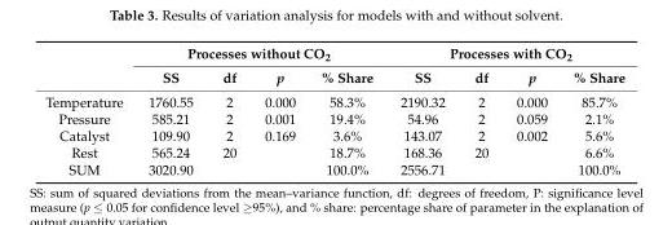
<table><thead><tr><td rowspan="2"></td><td colspan="4">Processes without CO<sub>2</sub></td><td colspan="4">Processes with CO<sub>2</sub></td></tr><tr><td>SS</td><td>df</td><td>p</td><td>% Share</td><td>SS</td><td>df</td><td>p</td><td>% Share</td></tr></thead><tbody><tr><td>Temperature</td><td>1760.55</td><td>2</td><td>0.000</td><td>58.3%</td><td>2190.32</td><td>2</td><td>0.000</td><td>85.7%</td></tr><tr><td>Pressure</td><td>585.21</td><td>2</td><td>0.001</td><td>19.4%</td><td>54.96</td><td>2</td><td>0.059</td><td>2.1%</td></tr><tr><td>Catalyst</td><td>109.90</td><td>2</td><td>0.169</td><td>3.6%</td><td>143.07</td><td>2</td><td>0.002</td><td>5.6%</td></tr><tr><td>Rest</td><td>565.24</td><td>20</td><td></td><td>18.7%</td><td>168.36</td><td>20</td><td></td><td>6.6%</td></tr><tr><td>SUM</td><td>3020.90</td><td></td><td></td><td>100.0%</td><td>2556.71</td><td></td><td></td><td>100.0%</td></tr></tbody></table>